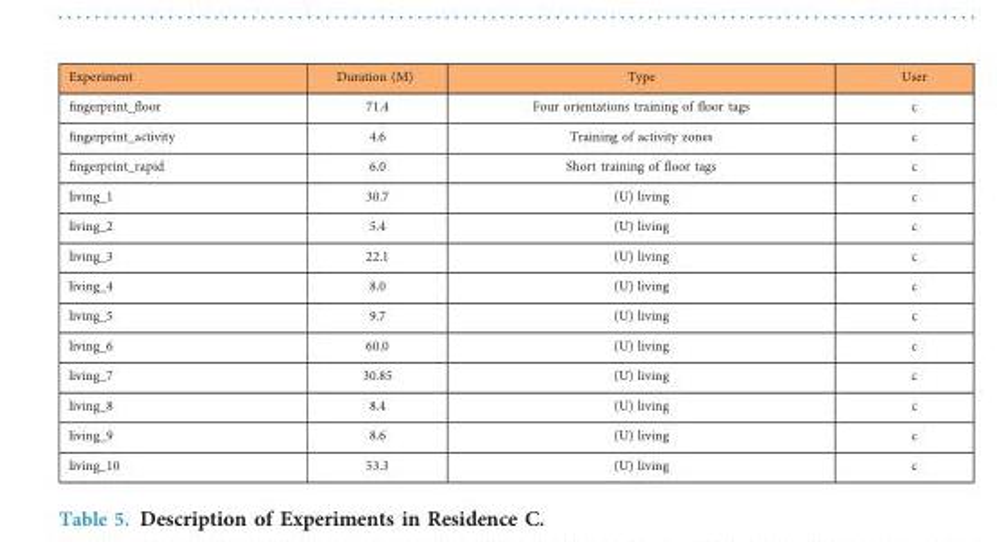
<table><thead><tr><td>Experiment</td><td>Duration (M)</td><td>Type</td><td>User</td></tr></thead><tbody><tr><td>fingerprint_floor</td><td>71.4</td><td>Four orientations training of floor tags</td><td>c</td></tr><tr><td>fingerprint_activity</td><td>4.6</td><td>Training of activity zones</td><td>c</td></tr><tr><td>fingerprint_rapid</td><td>6.0</td><td>Short training of floor tags</td><td>c</td></tr><tr><td>living_1</td><td>30.7</td><td>(U) living</td><td>c</td></tr><tr><td>living_2</td><td>5.4</td><td>(U) living</td><td>c</td></tr><tr><td>living_3</td><td>22.1</td><td>(U) living</td><td>c</td></tr><tr><td>living_4</td><td>8.0</td><td>(U) living</td><td>c</td></tr><tr><td>living_5</td><td>9.7</td><td>(U) living</td><td>c</td></tr><tr><td>living_6</td><td>60.0</td><td>(U) living</td><td>c</td></tr><tr><td>living_7</td><td>30.85</td><td>(U) living</td><td>c</td></tr><tr><td>living_8</td><td>8.4</td><td>(U) living</td><td>c</td></tr><tr><td>living_9</td><td>8.6</td><td>(U) living</td><td>c</td></tr><tr><td>living_10</td><td>53.3</td><td>(U) living</td><td>c</td></tr></tbody></table>